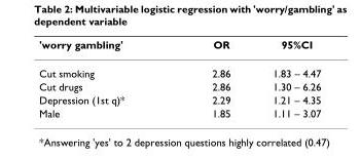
<table><thead><tr><td>&#x27;worry gambling&#x27;</td><td>OR</td><td>95%CI</td></tr></thead><tbody><tr><td>Cut smoking</td><td>2.86</td><td>1.83 – 4.47</td></tr><tr><td>Cut drugs</td><td>2.86</td><td>1.30 – 6.26</td></tr><tr><td>Depression (1st q)*</td><td>2.29</td><td>1.21 – 4.35</td></tr><tr><td>Male</td><td>1.85</td><td>1.11 – 3.07</td></tr></tbody></table>